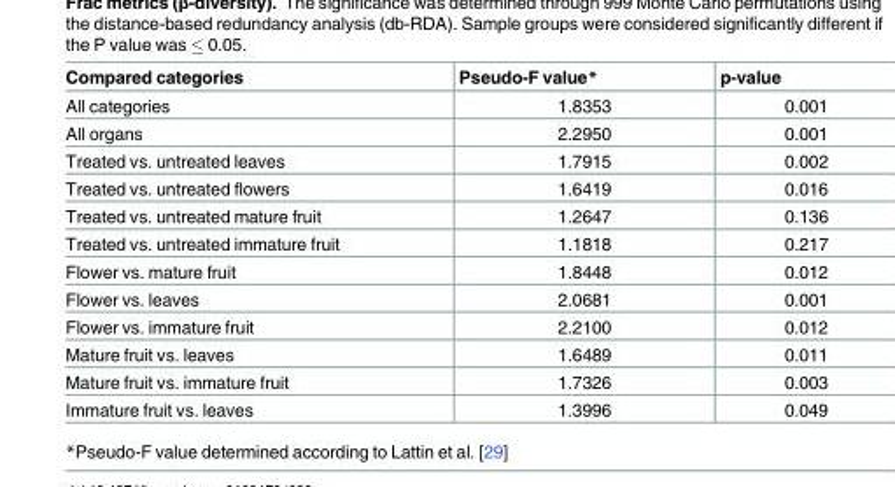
<table><thead><tr><td>Compared categories</td><td>Pseudo-F value*</td><td>p-value</td></tr></thead><tbody><tr><td>All categories</td><td>1.8353</td><td>0.001</td></tr><tr><td>All organs</td><td>2.2950</td><td>0.001</td></tr><tr><td>Treated vs. untreated leaves</td><td>1.7915</td><td>0.002</td></tr><tr><td>Treated vs. untreated flowers</td><td>1.6419</td><td>0.016</td></tr><tr><td>Treated vs. untreated mature fruit</td><td>1.2647</td><td>0.136</td></tr><tr><td>Treated vs. untreated immature fruit</td><td>1.1818</td><td>0.217</td></tr><tr><td>Flower vs. mature fruit</td><td>1.8448</td><td>0.012</td></tr><tr><td>Flower vs. leaves</td><td>2.0681</td><td>0.001</td></tr><tr><td>Flower vs. immature fruit</td><td>2.2100</td><td>0.012</td></tr><tr><td>Mature fruit vs. leaves</td><td>1.6489</td><td>0.011</td></tr><tr><td>Mature fruit vs. immature fruit</td><td>1.7326</td><td>0.003</td></tr><tr><td>Immature fruit vs. leaves</td><td>1.3996</td><td>0.049</td></tr></tbody></table>